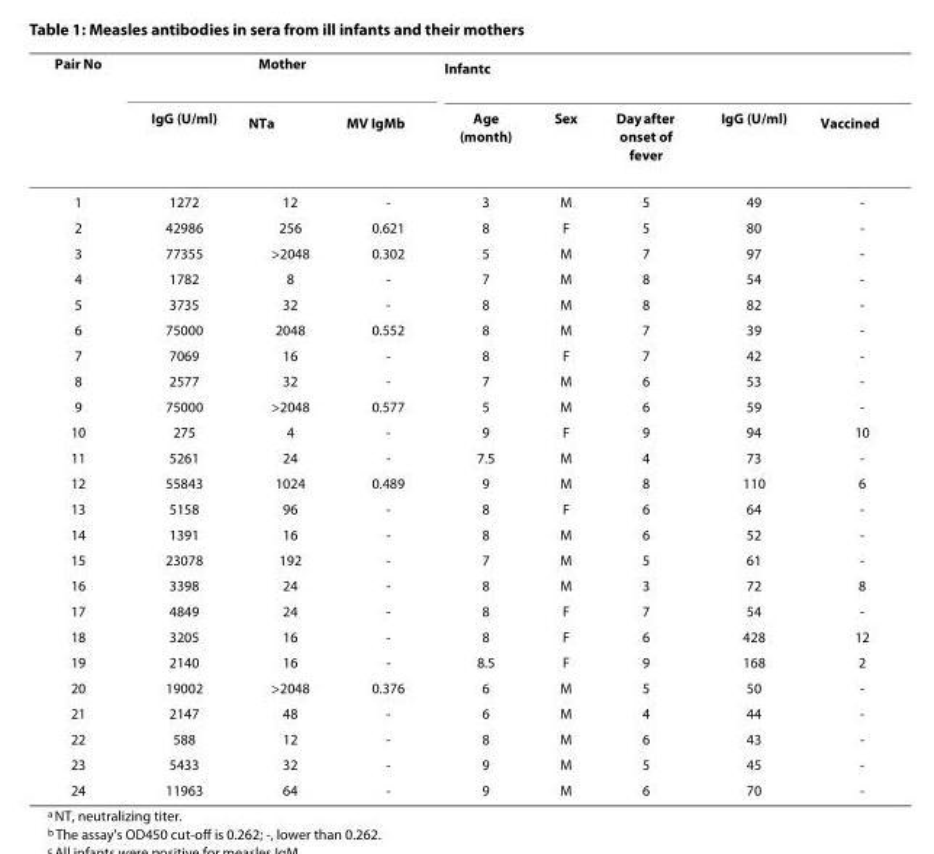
<table><thead><tr><td rowspan="2">Pair No</td><td colspan="3">Mother</td><td colspan="5">Infant<sup>c</sup></td></tr><tr><td>IgG (U/ml)</td><td>NT<sup>a</sup></td><td>MV IgM<sup>b</sup></td><td>Age (month)</td><td>Sex</td><td>Day after onset of fever</td><td>IgG (U/ml)</td><td>Vaccine<sup>d</sup></td></tr></thead><tbody><tr><td>1</td><td>1272</td><td>12</td><td>-</td><td>3</td><td>M</td><td>5</td><td>49</td><td>-</td></tr><tr><td>2</td><td>42986</td><td>256</td><td>0.621</td><td>8</td><td>F</td><td>5</td><td>80</td><td>-</td></tr><tr><td>3</td><td>77355</td><td>&gt;2048</td><td>0.302</td><td>5</td><td>M</td><td>7</td><td>97</td><td>-</td></tr><tr><td>4</td><td>1782</td><td>8</td><td>-</td><td>7</td><td>M</td><td>8</td><td>54</td><td>-</td></tr><tr><td>5</td><td>3735</td><td>32</td><td>-</td><td>8</td><td>M</td><td>8</td><td>82</td><td>-</td></tr><tr><td>6</td><td>75000</td><td>2048</td><td>0.552</td><td>8</td><td>M</td><td>7</td><td>39</td><td>-</td></tr><tr><td>7</td><td>7069</td><td>16</td><td>-</td><td>8</td><td>F</td><td>7</td><td>42</td><td>-</td></tr><tr><td>8</td><td>2577</td><td>32</td><td>-</td><td>7</td><td>M</td><td>6</td><td>53</td><td>-</td></tr><tr><td>9</td><td>75000</td><td>&gt;2048</td><td>0.577</td><td>5</td><td>M</td><td>6</td><td>59</td><td>-</td></tr><tr><td>10</td><td>275</td><td>4</td><td>-</td><td>9</td><td>F</td><td>9</td><td>94</td><td>10</td></tr><tr><td>11</td><td>5261</td><td>24</td><td>-</td><td>7.5</td><td>M</td><td>4</td><td>73</td><td>-</td></tr><tr><td>12</td><td>55843</td><td>1024</td><td>0.489</td><td>9</td><td>M</td><td>8</td><td>110</td><td>6</td></tr><tr><td>13</td><td>5158</td><td>96</td><td>-</td><td>8</td><td>F</td><td>6</td><td>64</td><td>-</td></tr><tr><td>14</td><td>1391</td><td>16</td><td>-</td><td>8</td><td>M</td><td>6</td><td>52</td><td>-</td></tr><tr><td>15</td><td>23078</td><td>192</td><td>-</td><td>7</td><td>M</td><td>5</td><td>61</td><td>-</td></tr><tr><td>16</td><td>3398</td><td>24</td><td>-</td><td>8</td><td>M</td><td>3</td><td>72</td><td>8</td></tr><tr><td>17</td><td>4849</td><td>24</td><td>-</td><td>8</td><td>F</td><td>7</td><td>54</td><td>-</td></tr><tr><td>18</td><td>3205</td><td>16</td><td>-</td><td>8</td><td>F</td><td>6</td><td>428</td><td>12</td></tr><tr><td>19</td><td>2140</td><td>16</td><td>-</td><td>8.5</td><td>F</td><td>9</td><td>168</td><td>2</td></tr><tr><td>20</td><td>19002</td><td>&gt;2048</td><td>0.376</td><td>6</td><td>M</td><td>5</td><td>50</td><td>-</td></tr><tr><td>21</td><td>2147</td><td>48</td><td>-</td><td>6</td><td>M</td><td>4</td><td>44</td><td>-</td></tr><tr><td>22</td><td>588</td><td>12</td><td>-</td><td>8</td><td>M</td><td>6</td><td>43</td><td>-</td></tr><tr><td>23</td><td>5433</td><td>32</td><td>-</td><td>9</td><td>M</td><td>5</td><td>45</td><td>-</td></tr><tr><td>24</td><td>11963</td><td>64</td><td>-</td><td>9</td><td>M</td><td>6</td><td>70</td><td>-</td></tr></tbody></table>